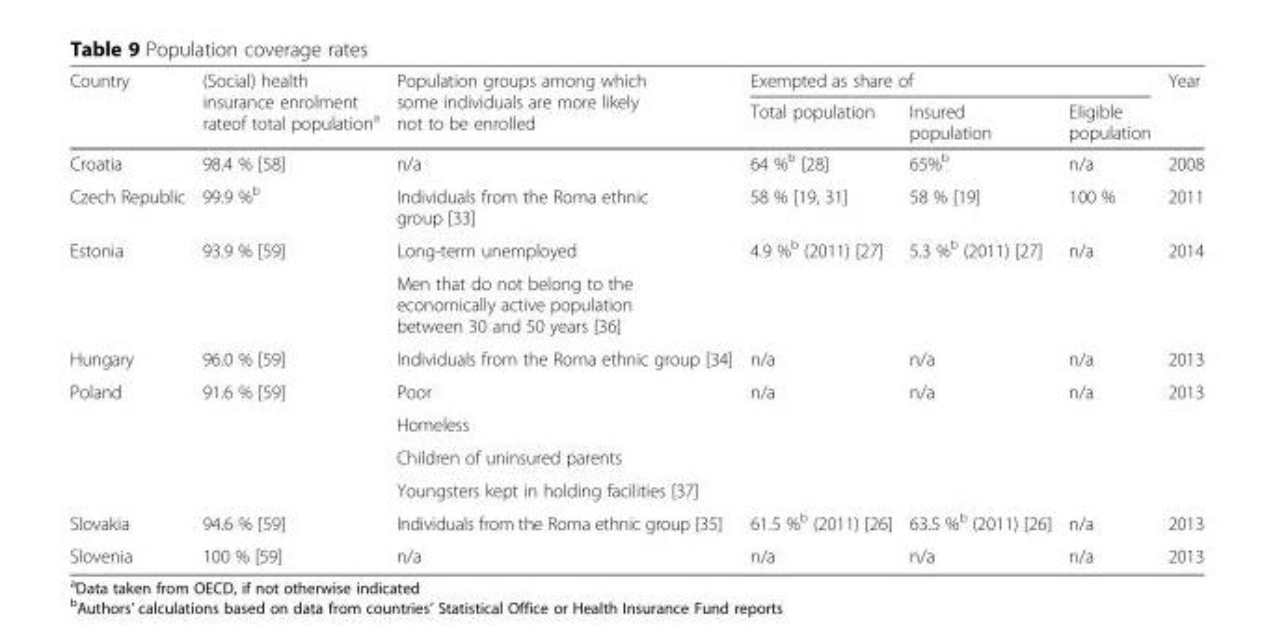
<table><thead><tr><td rowspan="2">Country</td><td rowspan="2">(Social) health insurance enrolment rateof total population<sup>a</sup></td><td rowspan="2">Population groups among which some individuals are more likely not to be enrolled</td><td colspan="3">Exempted as share of</td><td rowspan="2">Year</td></tr><tr><td>Total population</td><td>Insured population</td><td>Eligible population</td></tr></thead><tbody><tr><td>Croatia</td><td>98.4 % [58]</td><td>n/a</td><td>64 %<sup>b</sup> [28]</td><td>65%<sup>b</sup></td><td>n/a</td><td>2008</td></tr><tr><td>Czech Republic</td><td>99.9 %<sup>b</sup></td><td>Individuals from the Roma ethnic group [33]</td><td>58 % [19, 31]</td><td>58 % [19]</td><td>100 %</td><td>2011</td></tr><tr><td rowspan="2">Estonia</td><td rowspan="2">93.9 % [59]</td><td>Long-term unemployed</td><td rowspan="2">4.9 %<sup>b</sup> (2011) [27]</td><td rowspan="2">5.3 %<sup>b</sup> (2011) [27]</td><td rowspan="2">n/a</td><td rowspan="2">2014</td></tr><tr><td>Men that do not belong to the economically active population between 30 and 50 years [36]</td></tr><tr><td>Hungary</td><td>96.0 % [59]</td><td>Individuals from the Roma ethnic group [34]</td><td>n/a</td><td>n/a</td><td>n/a</td><td>2013</td></tr><tr><td rowspan="4">Poland</td><td rowspan="4">91.6 % [59]</td><td>Poor</td><td rowspan="4">n/a</td><td rowspan="4">n/a</td><td rowspan="4">n/a</td><td rowspan="4">2013</td></tr><tr><td>Homeless</td></tr><tr><td>Children of uninsured parents</td></tr><tr><td>Youngsters kept in holding facilities [37]</td></tr><tr><td>Slovakia</td><td>94.6 % [59]</td><td>Individuals from the Roma ethnic group [35]</td><td>61.5 %<sup>b</sup> (2011) [26]</td><td>63.5 %<sup>b</sup> (2011) [26]</td><td>n/a</td><td>2013</td></tr><tr><td>Slovenia</td><td>100 % [59]</td><td>n/a</td><td>n/a</td><td>n/a</td><td>n/a</td><td>2013</td></tr></tbody></table>